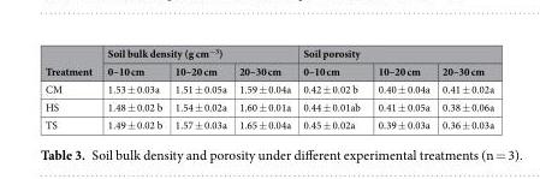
<table><thead><tr><td rowspan="2">Treatment</td><td colspan="3">Soil bulk density (g cm<sup>−3</sup>)</td><td colspan="3">Soil porosity</td></tr><tr><td>0–10 cm</td><td>10–20 cm</td><td>20–30 cm</td><td>0–10 cm</td><td>10–20 cm</td><td>20–30 cm</td></tr></thead><tbody><tr><td>CM</td><td>1.53 ± 0.03a</td><td>1.51 ± 0.05a</td><td>1.59 ± 0.04a</td><td>0.42 ± 0.02 b</td><td>0.40 ± 0.04a</td><td>0.41 ± 0.02a</td></tr><tr><td>HS</td><td>1.48 ± 0.02 b</td><td>1.54 ± 0.02a</td><td>1.60 ± 0.01a</td><td>0.44 ± 0.01ab</td><td>0.41 ± 0.05a</td><td>0.38 ± 0.06a</td></tr><tr><td>TS</td><td>1.49 ± 0.02 b</td><td>1.57 ± 0.03a</td><td>1.65 ± 0.04a</td><td>0.45 ± 0.02a</td><td>0.39 ± 0.03a</td><td>0.36 ± 0.03a</td></tr></tbody></table>